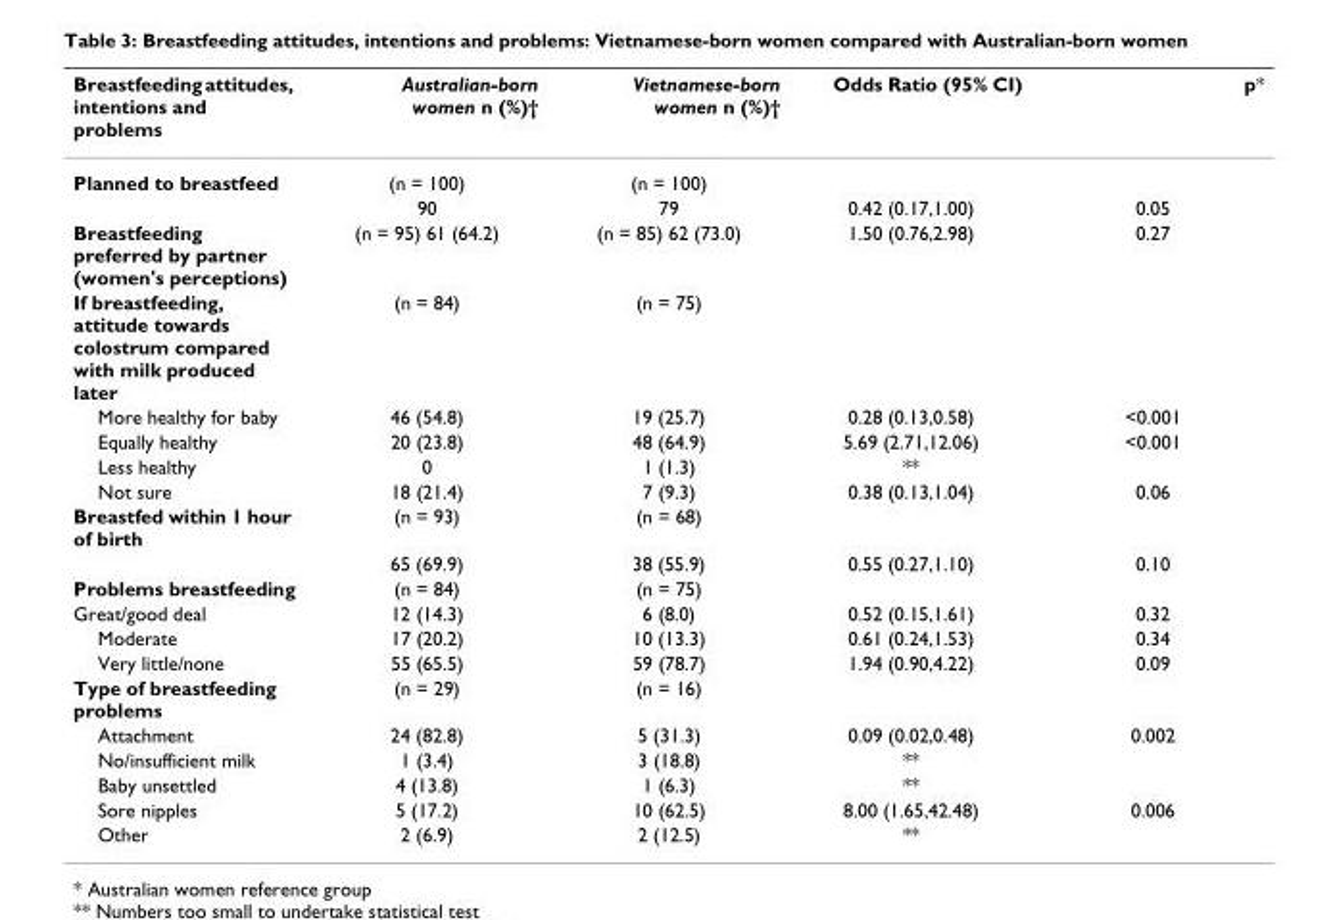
<table><thead><tr><td>Breastfeeding attitudes, intentions and problems</td><td>Australian-born women n (%)†</td><td>Vietnamese-born women n (%)†</td><td>Odds Ratio (95% CI)</td><td>p*</td></tr></thead><tbody><tr><td rowspan="2">Planned to breastfeed</td><td>(n = 100)</td><td>(n = 100)</td><td></td><td></td></tr><tr><td>90</td><td>79</td><td>0.42 (0.17,1.00)</td><td>0.05</td></tr><tr><td>Breastfeeding preferred by partner (women&#x27;s perceptions)</td><td>(n = 95) 61 (64.2)</td><td>(n = 85) 62 (73.0)</td><td>1.50 (0.76,2.98)</td><td>0.27</td></tr><tr><td>If breastfeeding, attitude towards colostrum compared with milk produced later</td><td>(n = 84)</td><td>(n = 75)</td><td></td><td></td></tr><tr><td>More healthy for baby</td><td>46 (54.8)</td><td>19 (25.7)</td><td>0.28 (0.13,0.58)</td><td>&lt;0.001</td></tr><tr><td>Equally healthy</td><td>20 (23.8)</td><td>48 (64.9)</td><td>5.69 (2.71,12.06)</td><td>&lt;0.001</td></tr><tr><td>Less healthy</td><td>0</td><td>1 (1.3)</td><td>**</td><td></td></tr><tr><td>Not sure</td><td>18 (21.4)</td><td>7 (9.3)</td><td>0.38 (0.13,1.04)</td><td>0.06</td></tr><tr><td rowspan="2">Breastfed within 1 hour of birth</td><td>(n = 93)</td><td>(n = 68)</td><td></td><td></td></tr><tr><td>65 (69.9)</td><td>38 (55.9)</td><td>0.55 (0.27,1.10)</td><td>0.10</td></tr><tr><td>Problems breastfeeding</td><td>(n = 84)</td><td>(n = 75)</td><td></td><td></td></tr><tr><td>Great/good deal</td><td>12 (14.3)</td><td>6 (8.0)</td><td>0.52 (0.15,1.61)</td><td>0.32</td></tr><tr><td>Moderate</td><td>17 (20.2)</td><td>10 (13.3)</td><td>0.61 (0.24,1.53)</td><td>0.34</td></tr><tr><td>Very little/none</td><td>55 (65.5)</td><td>59 (78.7)</td><td>1.94 (0.90,4.22)</td><td>0.09</td></tr><tr><td>Type of breastfeeding problems</td><td>(n = 29)</td><td>(n = 16)</td><td></td><td></td></tr><tr><td>Attachment</td><td>24 (82.8)</td><td>5 (31.3)</td><td>0.09 (0.02,0.48)</td><td>0.002</td></tr><tr><td>No/insufficient milk</td><td>1 (3.4)</td><td>3 (18.8)</td><td>**</td><td></td></tr><tr><td>Baby unsettled</td><td>4 (13.8)</td><td>1 (6.3)</td><td>**</td><td></td></tr><tr><td>Sore nipples</td><td>5 (17.2)</td><td>10 (62.5)</td><td>8.00 (1.65,42.48)</td><td>0.006</td></tr><tr><td>Other</td><td>2 (6.9)</td><td>2 (12.5)</td><td>**</td><td></td></tr></tbody></table>